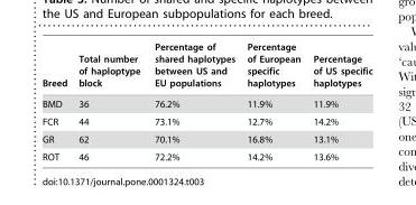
<table><thead><tr><td>Breed</td><td>Total number of haploptype block</td><td>Percentage of shared haplotypes between US and EU populations</td><td>Percentage of European specific haplotypes</td><td>Percentage of US specific haplotypes</td></tr></thead><tbody><tr><td>BMD</td><td>36</td><td>76.2%</td><td>11.9%</td><td>11.9%</td></tr><tr><td>FCR</td><td>44</td><td>73.1%</td><td>12.7%</td><td>14.2%</td></tr><tr><td>GR</td><td>62</td><td>70.1%</td><td>16.8%</td><td>13.1%</td></tr><tr><td>ROT</td><td>46</td><td>72.2%</td><td>14.2%</td><td>13.6%</td></tr></tbody></table>